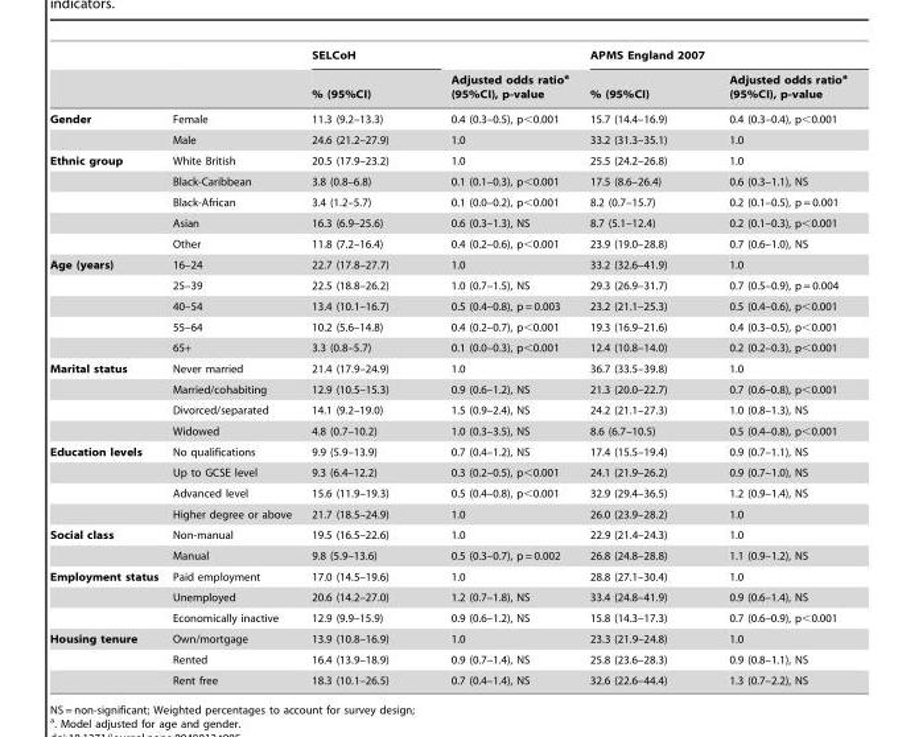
<table><thead><tr><td rowspan="2"></td><td rowspan="2"></td><td rowspan="2">SELCoH % (95%CI)</td><td rowspan="2">Adjusted odds ratio<sup>a</sup> (95%CI), p-value</td><td colspan="2">APMS England 2007</td></tr><tr><td>% (95%CI)</td><td>Adjusted odds ratio<sup>a</sup> (95%CI), p-value</td></tr></thead><tbody><tr><td rowspan="2">Gender</td><td>Female</td><td>11.3 (9.2–13.3)</td><td>0.4 (0.3–0.5), p&lt;0.001</td><td>15.7 (14.4–16.9)</td><td>0.4 (0.3–0.4), p&lt;0.001</td></tr><tr><td>Male</td><td>24.6 (21.2–27.9)</td><td>1.0</td><td>33.2 (31.3–35.1)</td><td>1.0</td></tr><tr><td rowspan="5">Ethnic group</td><td>White British</td><td>20.5 (17.9–23.2)</td><td>1.0</td><td>25.5 (24.2–26.8)</td><td>1.0</td></tr><tr><td>Black-Caribbean</td><td>3.8 (0.8–6.8)</td><td>0.1 (0.1–0.3), p&lt;0.001</td><td>17.5 (8.6–26.4)</td><td>0.6 (0.3–1.1), NS</td></tr><tr><td>Black-African</td><td>3.4 (1.2–5.7)</td><td>0.1 (0.0–0.2), p&lt;0.001</td><td>8.2 (0.7–15.7)</td><td>0.2 (0.1–0.5), p = 0.001</td></tr><tr><td>Asian</td><td>16.3 (6.9–25.6)</td><td>0.6 (0.3–1.3), NS</td><td>8.7 (5.1–12.4)</td><td>0.2 (0.1–0.3), p&lt;0.001</td></tr><tr><td>Other</td><td>11.8 (7.2–16.4)</td><td>0.4 (0.2–0.6), p&lt;0.001</td><td>23.9 (19.0–28.8)</td><td>0.7 (0.6–1.0), NS</td></tr><tr><td rowspan="5">Age (years)</td><td>16–24</td><td>22.7 (17.8–27.7)</td><td>1.0</td><td>33.2 (32.6–41.9)</td><td>1.0</td></tr><tr><td>25–39</td><td>22.5 (18.8–26.2)</td><td>1.0 (0.7–1.5), NS</td><td>29.3 (26.9–31.7)</td><td>0.7 (0.5–0.9), p = 0.004</td></tr><tr><td>40–54</td><td>13.4 (10.1–16.7)</td><td>0.5 (0.4–0.8), p = 0.003</td><td>23.2 (21.1–25.3)</td><td>0.5 (0.4–0.6), p&lt;0.001</td></tr><tr><td>55–64</td><td>10.2 (5.6–14.8)</td><td>0.4 (0.2–0.7), p&lt;0.001</td><td>19.3 (16.9–21.6)</td><td>0.4 (0.3–0.5), p&lt;0.001</td></tr><tr><td>65+</td><td>3.3 (0.8–5.7)</td><td>0.1 (0.0–0.3), p&lt;0.001</td><td>12.4 (10.8–14.0)</td><td>0.2 (0.2–0.3), p&lt;0.001</td></tr><tr><td rowspan="4">Marital status</td><td>Never married</td><td>21.4 (17.9–24.9)</td><td>1.0</td><td>36.7 (33.5–39.8)</td><td>1.0</td></tr><tr><td>Married/cohabiting</td><td>12.9 (10.5–15.3)</td><td>0.9 (0.6–1.2), NS</td><td>21.3 (20.0–22.7)</td><td>0.7 (0.6–0.8), p&lt;0.001</td></tr><tr><td>Divorced/separated</td><td>14.1 (9.2–19.0)</td><td>1.5 (0.9–2.4), NS</td><td>24.2 (21.1–27.3)</td><td>1.0 (0.8–1.3), NS</td></tr><tr><td>Widowed</td><td>4.8 (0.7–10.2)</td><td>1.0 (0.3–3.5), NS</td><td>8.6 (6.7–10.5)</td><td>0.5 (0.4–0.8), p&lt;0.001</td></tr><tr><td rowspan="4">Education levels</td><td>No qualifications</td><td>9.9 (5.9–13.9)</td><td>0.7 (0.4–1.2), NS</td><td>17.4 (15.5–19.4)</td><td>0.9 (0.7–1.1), NS</td></tr><tr><td>Up to GCSE level</td><td>9.3 (6.4–12.2)</td><td>0.3 (0.2–0.5), p&lt;0.001</td><td>24.1 (21.9–26.2)</td><td>0.9 (0.7–1.0), NS</td></tr><tr><td>Advanced level</td><td>15.6 (11.9–19.3)</td><td>0.5 (0.4–0.8), p&lt;0.001</td><td>32.9 (29.4–36.5)</td><td>1.2 (0.9–1.4), NS</td></tr><tr><td>Higher degree or above</td><td>21.7 (18.5–24.9)</td><td>1.0</td><td>26.0 (23.9–28.2)</td><td>1.0</td></tr><tr><td rowspan="2">Social class</td><td>Non-manual</td><td>19.5 (16.5–22.6)</td><td>1.0</td><td>22.9 (21.4–24.3)</td><td>1.0</td></tr><tr><td>Manual</td><td>9.8 (5.9–13.6)</td><td>0.5 (0.3–0.7), p = 0.002</td><td>26.8 (24.8–28.8)</td><td>1.1 (0.9–1.2), NS</td></tr><tr><td rowspan="3">Employment status</td><td>Paid employment</td><td>17.0 (14.5–19.6)</td><td>1.0</td><td>28.8 (27.1–30.4)</td><td>1.0</td></tr><tr><td>Unemployed</td><td>20.6 (14.2–27.0)</td><td>1.2 (0.7–1.8), NS</td><td>33.4 (24.8–41.9)</td><td>0.9 (0.6–1.4), NS</td></tr><tr><td>Economically inactive</td><td>12.9 (9.9–15.9)</td><td>0.9 (0.6–1.2), NS</td><td>15.8 (14.3–17.3)</td><td>0.7 (0.6–0.9), p&lt;0.001</td></tr><tr><td rowspan="3">Housing tenure</td><td>Own/mortgage</td><td>13.9 (10.8–16.9)</td><td>1.0</td><td>23.3 (21.9–24.8)</td><td>1.0</td></tr><tr><td>Rented</td><td>16.4 (13.9–18.9)</td><td>0.9 (0.7–1.4), NS</td><td>25.8 (23.6–28.3)</td><td>0.9 (0.8–1.1), NS</td></tr><tr><td>Rent free</td><td>18.3 (10.1–26.5)</td><td>0.7 (0.4–1.4), NS</td><td>32.6 (22.6–44.4)</td><td>1.3 (0.7–2.2), NS</td></tr></tbody></table>